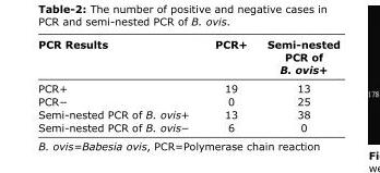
<table><thead><tr><td>PCR Results</td><td>PCR+</td><td>Semi-nested PCR of B. ovis+</td></tr></thead><tbody><tr><td>PCR+</td><td>19</td><td>13</td></tr><tr><td>PCR−</td><td>0</td><td>25</td></tr><tr><td>Semi-nested PCR of B. ovis+</td><td>13</td><td>38</td></tr><tr><td>Semi-nested PCR of B. ovis−</td><td>6</td><td>0</td></tr></tbody></table>